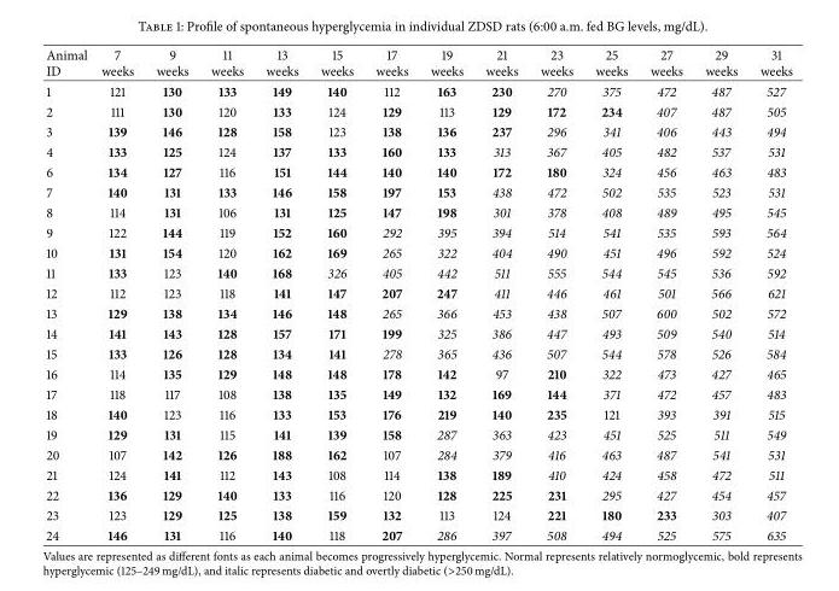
<table><thead><tr><td>Animal ID</td><td>7 weeks</td><td>9 weeks</td><td>11 weeks</td><td>13 weeks</td><td>15 weeks</td><td>17 weeks</td><td>19 weeks</td><td>21 weeks</td><td>23 weeks</td><td>25 weeks</td><td>27 weeks</td><td>29 weeks</td><td>31 weeks</td></tr></thead><tbody><tr><td>1</td><td>121</td><td>130</td><td>133</td><td>149</td><td>140</td><td>112</td><td>163</td><td>230</td><td>270</td><td>375</td><td>472</td><td>487</td><td>527</td></tr><tr><td>2</td><td>111</td><td>130</td><td>120</td><td>133</td><td>124</td><td>129</td><td>113</td><td>129</td><td>172</td><td>234</td><td>407</td><td>487</td><td>505</td></tr><tr><td>3</td><td>139</td><td>146</td><td>128</td><td>158</td><td>123</td><td>138</td><td>136</td><td>237</td><td>296</td><td>341</td><td>406</td><td>443</td><td>494</td></tr><tr><td>4</td><td>133</td><td>125</td><td>124</td><td>137</td><td>133</td><td>160</td><td>133</td><td>313</td><td>367</td><td>405</td><td>482</td><td>537</td><td>531</td></tr><tr><td>6</td><td>134</td><td>127</td><td>116</td><td>151</td><td>144</td><td>140</td><td>140</td><td>172</td><td>180</td><td>324</td><td>456</td><td>463</td><td>483</td></tr><tr><td>7</td><td>140</td><td>131</td><td>133</td><td>146</td><td>158</td><td>197</td><td>153</td><td>438</td><td>472</td><td>502</td><td>535</td><td>523</td><td>531</td></tr><tr><td>8</td><td>114</td><td>131</td><td>106</td><td>131</td><td>125</td><td>147</td><td>198</td><td>301</td><td>378</td><td>408</td><td>489</td><td>495</td><td>545</td></tr><tr><td>9</td><td>122</td><td>144</td><td>119</td><td>152</td><td>160</td><td>292</td><td>395</td><td>394</td><td>514</td><td>541</td><td>535</td><td>593</td><td>564</td></tr><tr><td>10</td><td>131</td><td>154</td><td>120</td><td>162</td><td>169</td><td>265</td><td>322</td><td>404</td><td>490</td><td>451</td><td>496</td><td>592</td><td>524</td></tr><tr><td>11</td><td>133</td><td>123</td><td>140</td><td>168</td><td>326</td><td>405</td><td>442</td><td>511</td><td>555</td><td>544</td><td>545</td><td>536</td><td>592</td></tr><tr><td>12</td><td>112</td><td>123</td><td>118</td><td>141</td><td>147</td><td>207</td><td>247</td><td>411</td><td>446</td><td>461</td><td>501</td><td>566</td><td>621</td></tr><tr><td>13</td><td>129</td><td>138</td><td>134</td><td>146</td><td>148</td><td>265</td><td>366</td><td>453</td><td>438</td><td>507</td><td>600</td><td>502</td><td>572</td></tr><tr><td>14</td><td>141</td><td>143</td><td>128</td><td>157</td><td>171</td><td>199</td><td>325</td><td>386</td><td>447</td><td>493</td><td>509</td><td>540</td><td>514</td></tr><tr><td>15</td><td>133</td><td>126</td><td>128</td><td>134</td><td>141</td><td>278</td><td>365</td><td>436</td><td>507</td><td>544</td><td>578</td><td>526</td><td>584</td></tr><tr><td>16</td><td>114</td><td>135</td><td>129</td><td>148</td><td>148</td><td>178</td><td>142</td><td>97</td><td>210</td><td>322</td><td>473</td><td>427</td><td>465</td></tr><tr><td>17</td><td>118</td><td>117</td><td>108</td><td>138</td><td>135</td><td>149</td><td>132</td><td>169</td><td>144</td><td>371</td><td>472</td><td>457</td><td>483</td></tr><tr><td>18</td><td>140</td><td>123</td><td>116</td><td>133</td><td>153</td><td>176</td><td>219</td><td>140</td><td>235</td><td>121</td><td>393</td><td>391</td><td>515</td></tr><tr><td>19</td><td>129</td><td>131</td><td>115</td><td>141</td><td>139</td><td>158</td><td>287</td><td>363</td><td>423</td><td>451</td><td>525</td><td>511</td><td>549</td></tr><tr><td>20</td><td>107</td><td>142</td><td>126</td><td>188</td><td>162</td><td>107</td><td>284</td><td>379</td><td>416</td><td>463</td><td>487</td><td>541</td><td>531</td></tr><tr><td>21</td><td>124</td><td>141</td><td>112</td><td>143</td><td>108</td><td>114</td><td>138</td><td>189</td><td>410</td><td>424</td><td>458</td><td>472</td><td>511</td></tr><tr><td>22</td><td>136</td><td>129</td><td>140</td><td>133</td><td>116</td><td>120</td><td>128</td><td>225</td><td>231</td><td>295</td><td>427</td><td>454</td><td>457</td></tr><tr><td>23</td><td>123</td><td>129</td><td>125</td><td>138</td><td>159</td><td>132</td><td>113</td><td>124</td><td>221</td><td>180</td><td>233</td><td>303</td><td>407</td></tr><tr><td>24</td><td>146</td><td>131</td><td>116</td><td>140</td><td>118</td><td>207</td><td>286</td><td>397</td><td>508</td><td>494</td><td>525</td><td>575</td><td>635</td></tr></tbody></table>